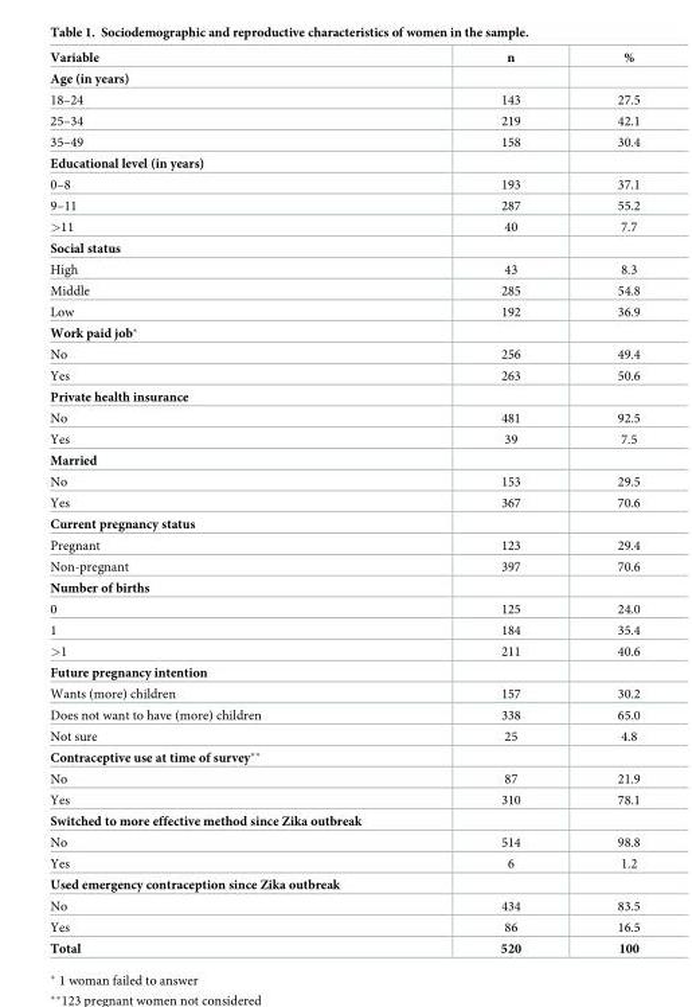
<table><thead><tr><td>Variable</td><td>n</td><td>%</td></tr></thead><tbody><tr><td colspan="3">Age (in years)</td></tr><tr><td>18–24</td><td>143</td><td>27.5</td></tr><tr><td>25–34</td><td>219</td><td>42.1</td></tr><tr><td>35–49</td><td>158</td><td>30.4</td></tr><tr><td colspan="3">Educational level (in years)</td></tr><tr><td>0–8</td><td>193</td><td>37.1</td></tr><tr><td>9–11</td><td>287</td><td>55.2</td></tr><tr><td>&gt;11</td><td>40</td><td>7.7</td></tr><tr><td colspan="3">Social status</td></tr><tr><td>High</td><td>43</td><td>8.3</td></tr><tr><td>Middle</td><td>285</td><td>54.8</td></tr><tr><td>Low</td><td>192</td><td>36.9</td></tr><tr><td colspan="3">Work paid job*</td></tr><tr><td>No</td><td>256</td><td>49.4</td></tr><tr><td>Yes</td><td>263</td><td>50.6</td></tr><tr><td colspan="3">Private health insurance</td></tr><tr><td>No</td><td>481</td><td>92.5</td></tr><tr><td>Yes</td><td>39</td><td>7.5</td></tr><tr><td colspan="3">Married</td></tr><tr><td>No</td><td>153</td><td>29.5</td></tr><tr><td>Yes</td><td>367</td><td>70.6</td></tr><tr><td colspan="3">Current pregnancy status</td></tr><tr><td>Pregnant</td><td>123</td><td>29.4</td></tr><tr><td>Non-pregnant</td><td>397</td><td>70.6</td></tr><tr><td colspan="3">Number of births</td></tr><tr><td>0</td><td>125</td><td>24.0</td></tr><tr><td>1</td><td>184</td><td>35.4</td></tr><tr><td>&gt;1</td><td>211</td><td>40.6</td></tr><tr><td colspan="3">Future pregnancy intention</td></tr><tr><td>Wants (more) children</td><td>157</td><td>30.2</td></tr><tr><td>Does not want to have (more) children</td><td>338</td><td>65.0</td></tr><tr><td>Not sure</td><td>25</td><td>4.8</td></tr><tr><td colspan="3">Contraceptive use at time of survey**</td></tr><tr><td>No</td><td>87</td><td>21.9</td></tr><tr><td>Yes</td><td>310</td><td>78.1</td></tr><tr><td colspan="3">Switched to more effective method since Zika outbreak</td></tr><tr><td>No</td><td>514</td><td>98.8</td></tr><tr><td>Yes</td><td>6</td><td>1.2</td></tr><tr><td colspan="3">Used emergency contraception since Zika outbreak</td></tr><tr><td>No</td><td>434</td><td>83.5</td></tr><tr><td>Yes</td><td>86</td><td>16.5</td></tr><tr><td>Total</td><td>520</td><td>100</td></tr></tbody></table>